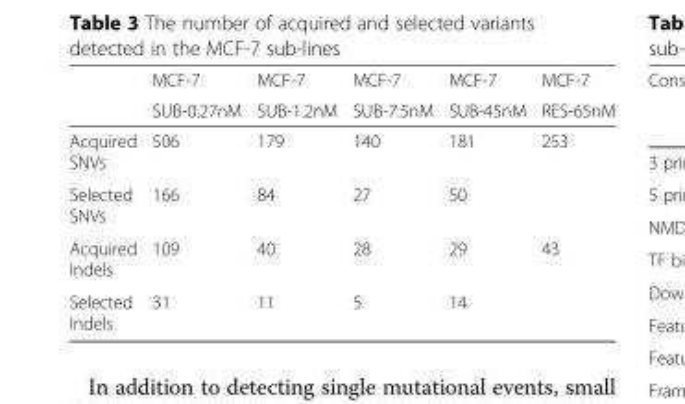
<table><thead><tr><td rowspan="2"></td><td rowspan="2">MCF-7 SUB-0.27nM</td><td rowspan="2">MCF-7 SUB-1.2nM</td><td rowspan="2">MCF-7 SUB-7.5nM</td><td rowspan="2">MCF-7 SUB-45nM</td><td rowspan="2">MCF-7 RES-65nM</td></tr><tr></tr></thead><tbody><tr><td>Acquired SNVs</td><td>506</td><td>179</td><td>140</td><td>181</td><td>253</td></tr><tr><td>Selected SNVs</td><td>166</td><td>84</td><td>27</td><td>50</td><td></td></tr><tr><td>Acquired Indels</td><td>109</td><td>40</td><td>28</td><td>29</td><td>43</td></tr><tr><td>Selected Indels</td><td>31</td><td>11</td><td>5</td><td>14</td><td></td></tr></tbody></table>